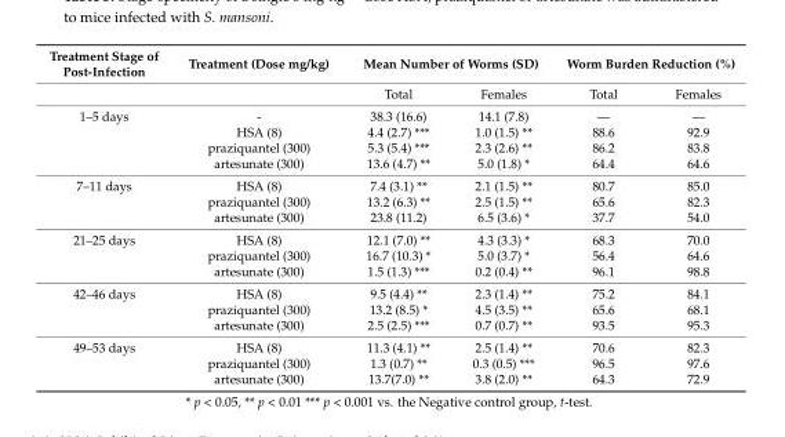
<table><thead><tr><td>Treatment Stage of Post-Infection</td><td>Treatment (Dose mg/kg)</td><td colspan="2">Mean Number of Worms (SD)</td><td colspan="2">Worm Burden Reduction (%)</td></tr><tr><td colspan="2"></td><td>Total</td><td>Females</td><td>Total</td><td>Females</td></tr></thead><tbody><tr><td rowspan="4">1–5 days</td><td>-</td><td>38.3 (16.6)</td><td>14.1 (7.8)</td><td>—</td><td>—</td></tr><tr><td>HSA (8)</td><td>4.4 (2.7) ***</td><td>1.0 (1.5) **</td><td>88.6</td><td>92.9</td></tr><tr><td>praziquantel (300)</td><td>5.3 (5.4) ***</td><td>2.3 (2.6) **</td><td>86.2</td><td>83.8</td></tr><tr><td>artesunate (300)</td><td>13.6 (4.7) **</td><td>5.0 (1.8) *</td><td>64.4</td><td>64.6</td></tr><tr><td rowspan="3">7–11 days</td><td>HSA (8)</td><td>7.4 (3.1) **</td><td>2.1 (1.5) **</td><td>80.7</td><td>85.0</td></tr><tr><td>praziquantel (300)</td><td>13.2 (6.3) **</td><td>2.5 (1.5) **</td><td>65.6</td><td>82.3</td></tr><tr><td>artesunate (300)</td><td>23.8 (11.2)</td><td>6.5 (3.6) *</td><td>37.7</td><td>54.0</td></tr><tr><td rowspan="3">21–25 days</td><td>HSA (8)</td><td>12.1 (7.0) **</td><td>4.3 (3.3) *</td><td>68.3</td><td>70.0</td></tr><tr><td>praziquantel (300)</td><td>16.7 (10.3) *</td><td>5.0 (3.7) *</td><td>56.4</td><td>64.6</td></tr><tr><td>artesunate (300)</td><td>1.5 (1.3) ***</td><td>0.2 (0.4) **</td><td>96.1</td><td>98.8</td></tr><tr><td rowspan="3">42–46 days</td><td>HSA (8)</td><td>9.5 (4.4) **</td><td>2.3 (1.4) **</td><td>75.2</td><td>84.1</td></tr><tr><td>praziquantel (300)</td><td>13.2 (8.5) *</td><td>4.5 (3.5) **</td><td>65.6</td><td>68.1</td></tr><tr><td>artesunate (300)</td><td>2.5 (2.5) ***</td><td>0.7 (0.7) **</td><td>93.5</td><td>95.3</td></tr><tr><td rowspan="3">49–53 days</td><td>HSA (8)</td><td>11.3 (4.1) **</td><td>2.5 (1.4) **</td><td>70.6</td><td>82.3</td></tr><tr><td>praziquantel (300)</td><td>1.3 (0.7) **</td><td>0.3 (0.5) ***</td><td>96.5</td><td>97.6</td></tr><tr><td>artesunate (300)</td><td>13.7(7.0) **</td><td>3.8 (2.0) **</td><td>64.3</td><td>72.9</td></tr></tbody></table>